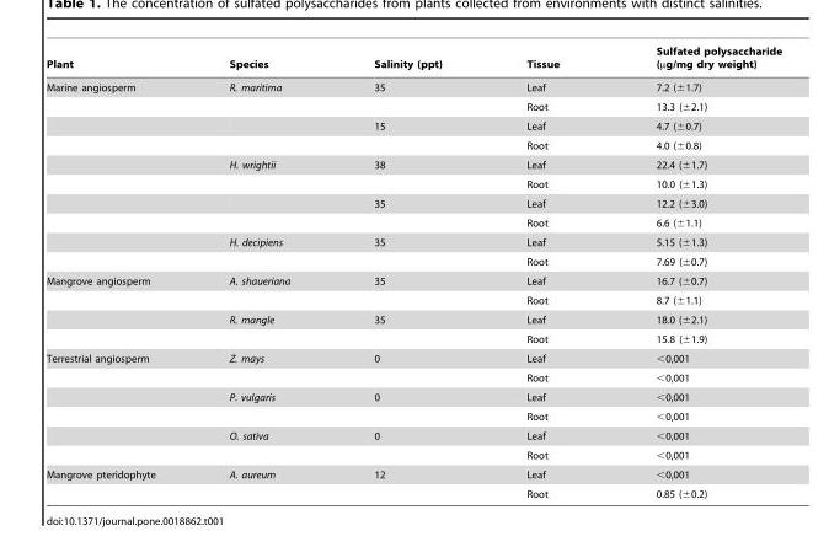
<table><thead><tr><td>Plant</td><td>Species</td><td>Salinity (ppt)</td><td>Tissue</td><td>Sulfated polysaccharide (µg/mg dry weight)</td></tr></thead><tbody><tr><td rowspan="10">Marine angiosperm</td><td>R. maritima</td><td>35</td><td>Leaf</td><td>7.2 (±1.7)</td></tr><tr><td></td><td></td><td>Root</td><td>13.3 (±2.1)</td></tr><tr><td></td><td>15</td><td>Leaf</td><td>4.7 (±0.7)</td></tr><tr><td></td><td></td><td>Root</td><td>4.0 (±0.8)</td></tr><tr><td>H. wrightii</td><td>38</td><td>Leaf</td><td>22.4 (±1.7)</td></tr><tr><td></td><td></td><td>Root</td><td>10.0 (±1.3)</td></tr><tr><td></td><td>35</td><td>Leaf</td><td>12.2 (±3.0)</td></tr><tr><td></td><td></td><td>Root</td><td>6.6 (±1.1)</td></tr><tr><td>H. decipiens</td><td>35</td><td>Leaf</td><td>5.15 (±1.3)</td></tr><tr><td></td><td></td><td>Root</td><td>7.69 (±0.7)</td></tr><tr><td rowspan="4">Mangrove angiosperm</td><td>A. shaueriana</td><td>35</td><td>Leaf</td><td>16.7 (±0.7)</td></tr><tr><td></td><td></td><td>Root</td><td>8.7 (±1.1)</td></tr><tr><td>R. mangle</td><td>35</td><td>Leaf</td><td>18.0 (±2.1)</td></tr><tr><td></td><td></td><td>Root</td><td>15.8 (±1.9)</td></tr><tr><td rowspan="6">Terrestrial angiosperm</td><td>Z. mays</td><td>0</td><td>Leaf</td><td>&lt;0,001</td></tr><tr><td></td><td></td><td>Root</td><td>&lt;0,001</td></tr><tr><td>P. vulgaris</td><td>0</td><td>Leaf</td><td>&lt;0,001</td></tr><tr><td></td><td></td><td>Root</td><td>&lt;0,001</td></tr><tr><td>O. sativa</td><td>0</td><td>Leaf</td><td>&lt;0,001</td></tr><tr><td></td><td></td><td>Root</td><td>&lt;0,001</td></tr><tr><td rowspan="2">Mangrove pteridophyte</td><td>A. aureum</td><td>12</td><td>Leaf</td><td>&lt;0,001</td></tr><tr><td></td><td></td><td>Root</td><td>0.85 (±0.2)</td></tr></tbody></table>